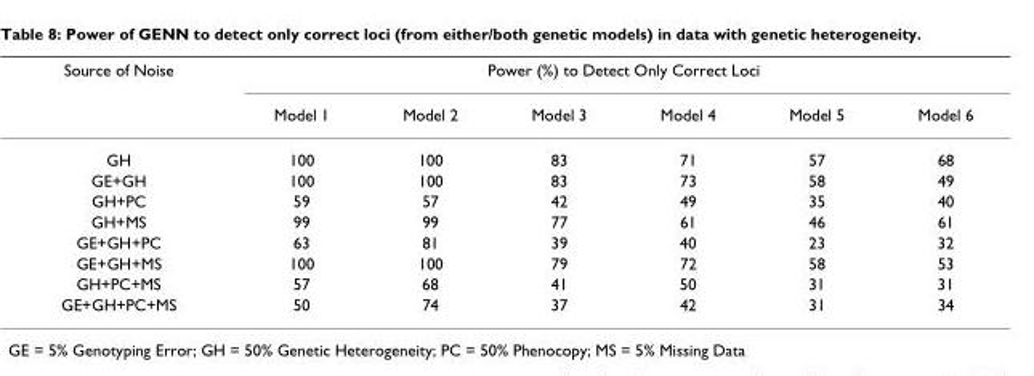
<table><thead><tr><td rowspan="2">Source of Noise</td><td colspan="6">Power (%) to Detect Only Correct Loci</td></tr><tr><td>Model 1</td><td>Model 2</td><td>Model 3</td><td>Model 4</td><td>Model 5</td><td>Model 6</td></tr></thead><tbody><tr><td>GH</td><td>100</td><td>100</td><td>83</td><td>71</td><td>57</td><td>68</td></tr><tr><td>GE+GH</td><td>100</td><td>100</td><td>83</td><td>73</td><td>58</td><td>49</td></tr><tr><td>GH+PC</td><td>59</td><td>57</td><td>42</td><td>49</td><td>35</td><td>40</td></tr><tr><td>GH+MS</td><td>99</td><td>99</td><td>77</td><td>61</td><td>46</td><td>61</td></tr><tr><td>GE+GH+PC</td><td>63</td><td>81</td><td>39</td><td>40</td><td>23</td><td>32</td></tr><tr><td>GE+GH+MS</td><td>100</td><td>100</td><td>79</td><td>72</td><td>58</td><td>53</td></tr><tr><td>GH+PC+MS</td><td>57</td><td>68</td><td>41</td><td>50</td><td>31</td><td>31</td></tr><tr><td>GE+GH+PC+MS</td><td>50</td><td>74</td><td>37</td><td>42</td><td>31</td><td>34</td></tr></tbody></table>